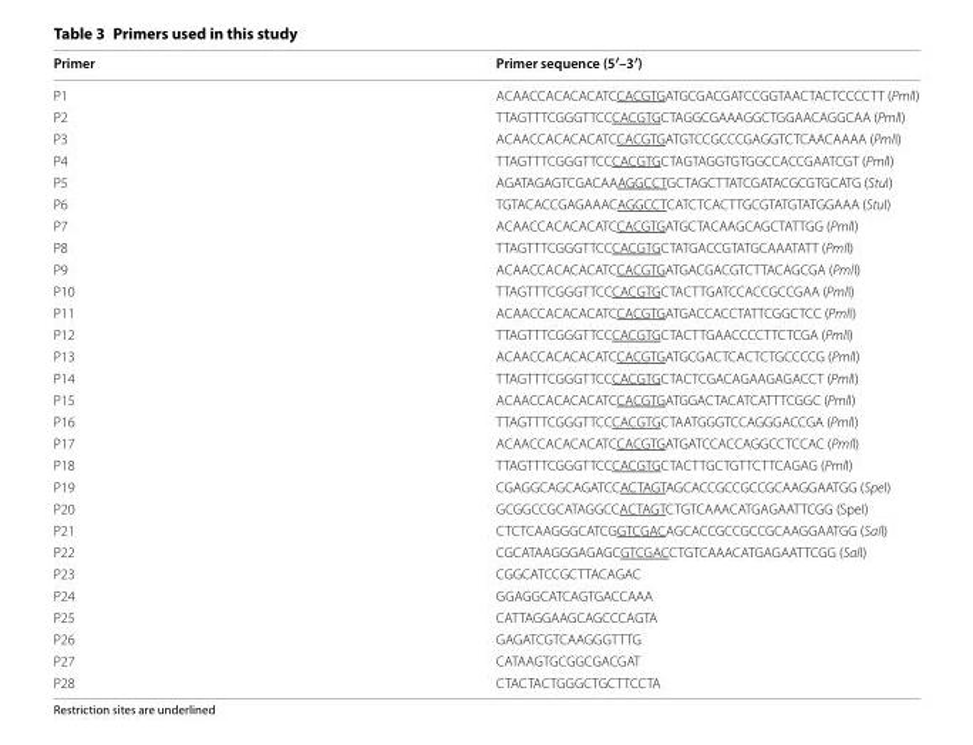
<table><thead><tr><td>Primer</td><td>Primer sequence (5′–3′)</td></tr></thead><tbody><tr><td>P1</td><td>ACAACCACACACATCCACGTGATGCGACGATCCGGTAACTACTCCCCTT (PmlI)</td></tr><tr><td>P2</td><td>TTAGTTTCGGGTTCCCACGTGCTAGGCGAAAGGCTGGAACAGGCAA (PmlI)</td></tr><tr><td>P3</td><td>ACAACCACACACATCCACGTGATGTCCGCCCGAGGTCTCAACAAAA (PmlI)</td></tr><tr><td>P4</td><td>TTAGTTTCGGGTTCCCACGTGCTAGTAGGTGTGGCCACCGAATCGT (PmlI)</td></tr><tr><td>P5</td><td>AGATAGAGTCGACAAAGGCCTGCTAGCTTATCGATACGCGTGCATG (StuI)</td></tr><tr><td>P6</td><td>TGTACACCGAGAAACAGGCCTCATCTCACTTGCGTATGTATGGAAA (StuI)</td></tr><tr><td>P7</td><td>ACAACCACACACATCCACGTGATGCTACAAGCAGCTATTGG (PmlI)</td></tr><tr><td>P8</td><td>TTAGTTTCGGGTTCCCACGTGCTATGACCGTATGCAAATATT (PmlI)</td></tr><tr><td>P9</td><td>ACAACCACACACATCCACGTGATGACGACGTCTTACAGCGA (PmlI)</td></tr><tr><td>P10</td><td>TTAGTTTCGGGTTCCCACGTGCTACTTGATCCACCGCCGAA (PmlI)</td></tr><tr><td>P11</td><td>ACAACCACACACATCCACGTGATGACCACCTATTCGGCTCC (PmlI)</td></tr><tr><td>P12</td><td>TTAGTTTCGGGTTCCCACGTGCTACTTGAACCCCTTCTCGA (PmlI)</td></tr><tr><td>P13</td><td>ACAACCACACACATCCACGTGATGCGACTCACTCTGCCCCG (PmlI)</td></tr><tr><td>P14</td><td>TTAGTTTCGGGTTCCCACGTGCTACTCGACAGAAGAGACCT (PmlI)</td></tr><tr><td>P15</td><td>ACAACCACACACATCCACGTGATGGACTACATCATTTCGGC (PmlI)</td></tr><tr><td>P16</td><td>TTAGTTTCGGGTTCCCACGTGCTAATGGGTCCAGGGACCGA (PmlI)</td></tr><tr><td>P17</td><td>ACAACCACACACATCCACGTGATGATCCACCAGGCCTCCAC (PmlI)</td></tr><tr><td>P18</td><td>TTAGTTTCGGGTTCCCACGTGCTACTTGCTGTTCTTCAGAG (PmlI)</td></tr><tr><td>P19</td><td>CGAGGCAGCAGATCCACTAGTAGCACCGCCGCCGCAAGGAATGG (SpeI)</td></tr><tr><td>P20</td><td>GCGGCCGCATAGGCCACTAGTCTGTCAAACATGAGAATTCGG (SpeI)</td></tr><tr><td>P21</td><td>CTCTCAAGGGCATCGGTCGACAGCACCGCCGCCGCAAGGAATGG (SalI)</td></tr><tr><td>P22</td><td>CGCATAAGGGAGAGCGTCGACCTGTCAAACATGAGAATTCGG (SalI)</td></tr><tr><td>P23</td><td>CGGCATCCGCTTACAGAC</td></tr><tr><td>P24</td><td>GGAGGCATCAGTGACCAAA</td></tr><tr><td>P25</td><td>CATTAGGAAGCAGCCCAGTA</td></tr><tr><td>P26</td><td>GAGATCGTCAAGGGTTTG</td></tr><tr><td>P27</td><td>CATAAGTGCGGCGACGAT</td></tr><tr><td>P28</td><td>CTACTACTGGGCTGCTTCCTA</td></tr></tbody></table>